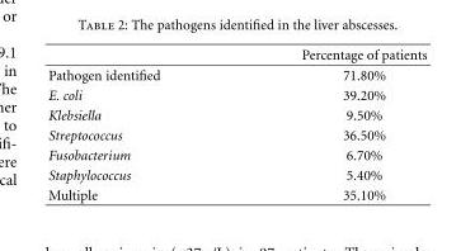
<table><thead><tr><td></td><td>Percentage of patients</td></tr></thead><tbody><tr><td>Pathogen identified</td><td>71.80%</td></tr><tr><td>E. coli</td><td>39.20%</td></tr><tr><td>Klebsiella</td><td>9.50%</td></tr><tr><td>Streptococcus</td><td>36.50%</td></tr><tr><td>Fusobacterium</td><td>6.70%</td></tr><tr><td>Staphylococcus</td><td>5.40%</td></tr><tr><td>Multiple</td><td>35.10%</td></tr></tbody></table>